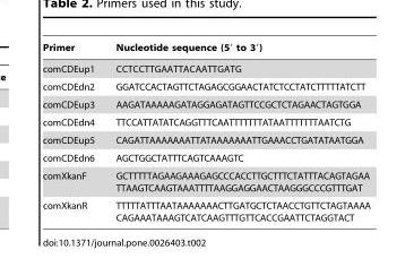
<table><thead><tr><td>Primer</td><td>Nucleotide sequence (5′ to 3′)</td></tr></thead><tbody><tr><td>comCDEup1</td><td>CCTCCTTGAATTACAATTGATG</td></tr><tr><td>comCDEdn2</td><td>GGATCCACTAGTTCTAGAGCGGAACTATCTCCTATCTTTTTATCTT</td></tr><tr><td>comCDEup3</td><td>AAGATAAAAAGATAGGAGATAGTTCCGCTCTAGAACTAGTGGA</td></tr><tr><td>comCDEdn4</td><td>TTCCATTATATCAGGTTTCAATTTTTTTATAATTTTTTTAATCTG</td></tr><tr><td>comCDEup5</td><td>CAGATTAAAAAAATTATAAAAAAATTGAAACCTGATATAATGGA</td></tr><tr><td>comCDEdn6</td><td>AGCTGGCTATTTCAGTCAAAGTC</td></tr><tr><td>comXkanF</td><td>GCTTTTTAGAAGAAAGAGCCCACCTTGCTTTCTATTTACAGTAGAA TTAAGTCAAGTAAATTTTAAGGAGGAACTAAGGGCCCGTTTGAT</td></tr><tr><td>comXkanR</td><td>TTTTTATTTAATAAAAAAACTTGATGCTCTAACCTGTTCTAGTAAAA CAGAAATAAAGTCATCAAGTTTGTTCACCGAATTCTAGGTACT</td></tr></tbody></table>